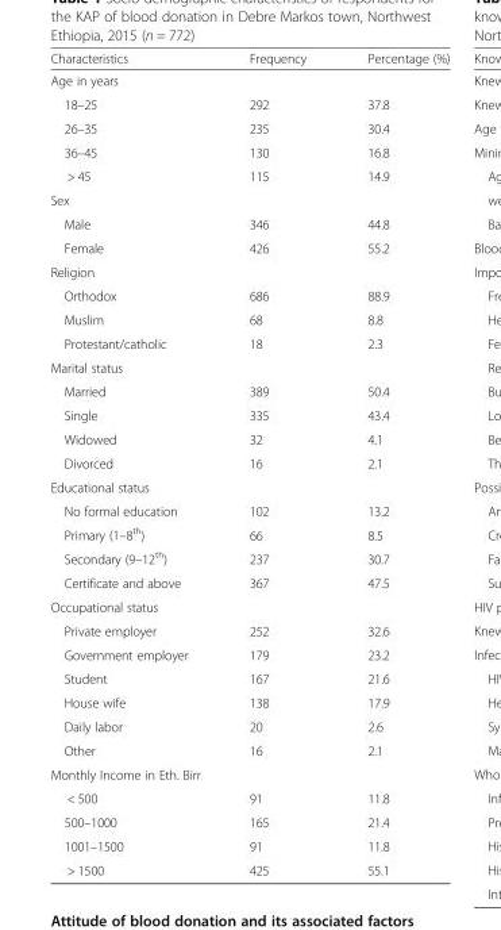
<table><thead><tr><td>Characteristics</td><td>Frequency</td><td>Percentage (%)</td></tr></thead><tbody><tr><td colspan="3">Age in years</td></tr><tr><td>18–25</td><td>292</td><td>37.8</td></tr><tr><td>26–35</td><td>235</td><td>30.4</td></tr><tr><td>36–45</td><td>130</td><td>16.8</td></tr><tr><td>&gt; 45</td><td>115</td><td>14.9</td></tr><tr><td colspan="3">Sex</td></tr><tr><td>Male</td><td>346</td><td>44.8</td></tr><tr><td>Female</td><td>426</td><td>55.2</td></tr><tr><td colspan="3">Religion</td></tr><tr><td>Orthodox</td><td>686</td><td>88.9</td></tr><tr><td>Muslim</td><td>68</td><td>8.8</td></tr><tr><td>Protestant/catholic</td><td>18</td><td>2.3</td></tr><tr><td colspan="3">Marital status</td></tr><tr><td>Married</td><td>389</td><td>50.4</td></tr><tr><td>Single</td><td>335</td><td>43.4</td></tr><tr><td>Widowed</td><td>32</td><td>4.1</td></tr><tr><td>Divorced</td><td>16</td><td>2.1</td></tr><tr><td colspan="3">Educational status</td></tr><tr><td>No formal education</td><td>102</td><td>13.2</td></tr><tr><td>Primary (1–8<sup>th</sup>)</td><td>66</td><td>8.5</td></tr><tr><td>Secondary (9–12<sup>th</sup>)</td><td>237</td><td>30.7</td></tr><tr><td>Certificate and above</td><td>367</td><td>47.5</td></tr><tr><td colspan="3">Occupational status</td></tr><tr><td>Private employer</td><td>252</td><td>32.6</td></tr><tr><td>Government employer</td><td>179</td><td>23.2</td></tr><tr><td>Student</td><td>167</td><td>21.6</td></tr><tr><td>House wife</td><td>138</td><td>17.9</td></tr><tr><td>Daily labor</td><td>20</td><td>2.6</td></tr><tr><td>Other</td><td>16</td><td>2.1</td></tr><tr><td colspan="3">Monthly Income in Eth. Birr</td></tr><tr><td>&lt; 500</td><td>91</td><td>11.8</td></tr><tr><td>500–1000</td><td>165</td><td>21.4</td></tr><tr><td>1001–1500</td><td>91</td><td>11.8</td></tr><tr><td>&gt; 1500</td><td>425</td><td>55.1</td></tr></tbody></table>